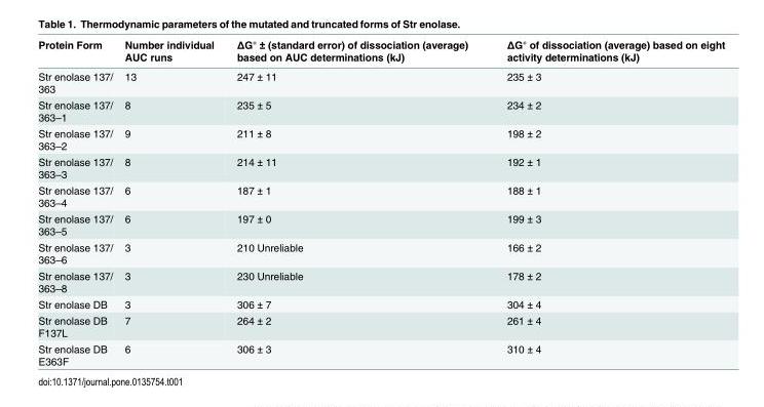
<table><thead><tr><td>Protein Form</td><td>Number individual AUC runs</td><td>ΔG° ± (standard error) of dissociation (average) based on AUC determinations (kJ)</td><td>ΔG° of dissociation (average) based on eight activity determinations (kJ)</td></tr></thead><tbody><tr><td>Str enolase 137/ 363</td><td>13</td><td>247 ± 11</td><td>235 ± 3</td></tr><tr><td>Str enolase 137/ 363–1</td><td>8</td><td>235 ± 5</td><td>234 ± 2</td></tr><tr><td>Str enolase 137/ 363–2</td><td>9</td><td>211 ± 8</td><td>198 ± 2</td></tr><tr><td>Str enolase 137/ 363–3</td><td>8</td><td>214 ± 11</td><td>192 ± 1</td></tr><tr><td>Str enolase 137/ 363–4</td><td>6</td><td>187 ± 1</td><td>188 ± 1</td></tr><tr><td>Str enolase 137/ 363–5</td><td>6</td><td>197 ± 0</td><td>199 ± 3</td></tr><tr><td>Str enolase 137/ 363–6</td><td>3</td><td>210 Unreliable</td><td>166 ± 2</td></tr><tr><td>Str enolase 137/ 363–8</td><td>3</td><td>230 Unreliable</td><td>178 ± 2</td></tr><tr><td>Str enolase DB</td><td>3</td><td>306 ± 7</td><td>304 ± 4</td></tr><tr><td>Str enolase DB F137L</td><td>7</td><td>264 ± 2</td><td>261 ± 4</td></tr><tr><td>Str enolase DB E363F</td><td>6</td><td>306 ± 3</td><td>310 ± 4</td></tr></tbody></table>